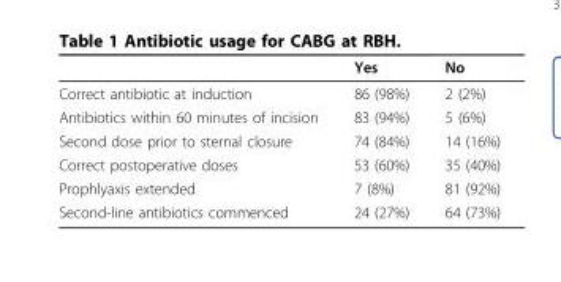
<table><thead><tr><td></td><td>Yes</td><td>No</td></tr></thead><tbody><tr><td>Correct antibiotic at induction</td><td>86 (98%)</td><td>2 (2%)</td></tr><tr><td>Antibiotics within 60 minutes of incision</td><td>83 (94%)</td><td>5 (6%)</td></tr><tr><td>Second dose prior to sternal closure</td><td>74 (84%)</td><td>14 (16%)</td></tr><tr><td>Correct postoperative doses</td><td>53 (60%)</td><td>35 (40%)</td></tr><tr><td>Prophlyaxis extended</td><td>7 (8%)</td><td>81 (92%)</td></tr><tr><td>Second-line antibiotics commenced</td><td>24 (27%)</td><td>64 (73%)</td></tr></tbody></table>